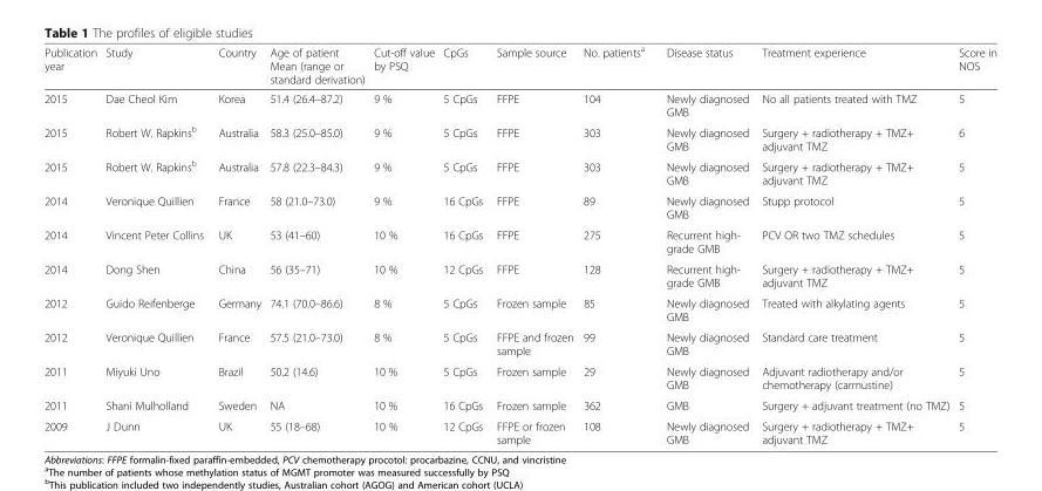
<table><thead><tr><td>Publication year</td><td>Study</td><td>Country</td><td>Age of patient Mean (range or standard derivation)</td><td>Cut-off value by PSQ</td><td>CpGs</td><td>Sample source</td><td>No. patients<sup>a</sup></td><td>Disease status</td><td>Treatment experience</td><td>Score in NOS</td></tr></thead><tbody><tr><td>2015</td><td>Dae Cheol Kim</td><td>Korea</td><td>51.4 (26.4–87.2)</td><td>9 %</td><td>5 CpGs</td><td>FFPE</td><td>104</td><td>Newly diagnosed GMB</td><td>No all patients treated with TMZ</td><td>5</td></tr><tr><td>2015</td><td>Robert W. Rapkins<sup>b</sup></td><td>Australia</td><td>58.3 (25.0–85.0)</td><td>9 %</td><td>5 CpGs</td><td>FFPE</td><td>303</td><td>Newly diagnosed GMB</td><td>Surgery + radiotherapy + TMZ+ adjuvant TMZ</td><td>6</td></tr><tr><td>2015</td><td>Robert W. Rapkins<sup>b</sup></td><td>Australia</td><td>57.8 (22.3–84.3)</td><td>9 %</td><td>5 CpGs</td><td>FFPE</td><td>303</td><td>Newly diagnosed GMB</td><td>Surgery + radiotherapy + TMZ+ adjuvant TMZ</td><td>5</td></tr><tr><td>2014</td><td>Veronique Quillien</td><td>France</td><td>58 (21.0–73.0)</td><td>9 %</td><td>16 CpGs</td><td>FFPE</td><td>89</td><td>Newly diagnosed GMB</td><td>Stupp protocol</td><td>5</td></tr><tr><td>2014</td><td>Vincent Peter Collins</td><td>UK</td><td>53 (41–60)</td><td>10 %</td><td>16 CpGs</td><td>FFPE</td><td>275</td><td>Recurrent high- grade GMB</td><td>PCV OR two TMZ schedules</td><td>5</td></tr><tr><td>2014</td><td>Dong Shen</td><td>China</td><td>56 (35–71)</td><td>10 %</td><td>12 CpGs</td><td>FFPE</td><td>128</td><td>Recurrent high- grade GMB</td><td>Surgery + radiotherapy + TMZ+ adjuvant TMZ</td><td>5</td></tr><tr><td>2012</td><td>Guido Reifenberge</td><td>Germany</td><td>74.1 (70.0–86.6)</td><td>8 %</td><td>5 CpGs</td><td>Frozen sample</td><td>85</td><td>Newly diagnosed GMB</td><td>Treated with alkylating agents</td><td>5</td></tr><tr><td>2012</td><td>Veronique Quillien</td><td>France</td><td>57.5 (21.0–73.0)</td><td>8 %</td><td>5 CpGs</td><td>FFPE and frozen sample</td><td>99</td><td>Newly diagnosed GMB</td><td>Standard care treatment</td><td>5</td></tr><tr><td>2011</td><td>Miyuki Uno</td><td>Brazil</td><td>50.2 (14.6)</td><td>10 %</td><td>5 CpGs</td><td>Frozen sample</td><td>29</td><td>Newly diagnosed GMB</td><td>Adjuvant radiotherapy and/or chemotherapy (carmustine)</td><td>5</td></tr><tr><td>2011</td><td>Shani Mulholland</td><td>Sweden</td><td>NA</td><td>10 %</td><td>16 CpGs</td><td>Frozen sample</td><td>362</td><td>GMB</td><td>Surgery + adjuvant treatment (no TMZ)</td><td>5</td></tr><tr><td>2009</td><td>J Dunn</td><td>UK</td><td>55 (18–68)</td><td>10 %</td><td>12 CpGs</td><td>FFPE or frozen sample</td><td>108</td><td>Newly diagnosed GMB</td><td>Surgery + radiotherapy + TMZ+ adjuvant TMZ</td><td>5</td></tr></tbody></table>